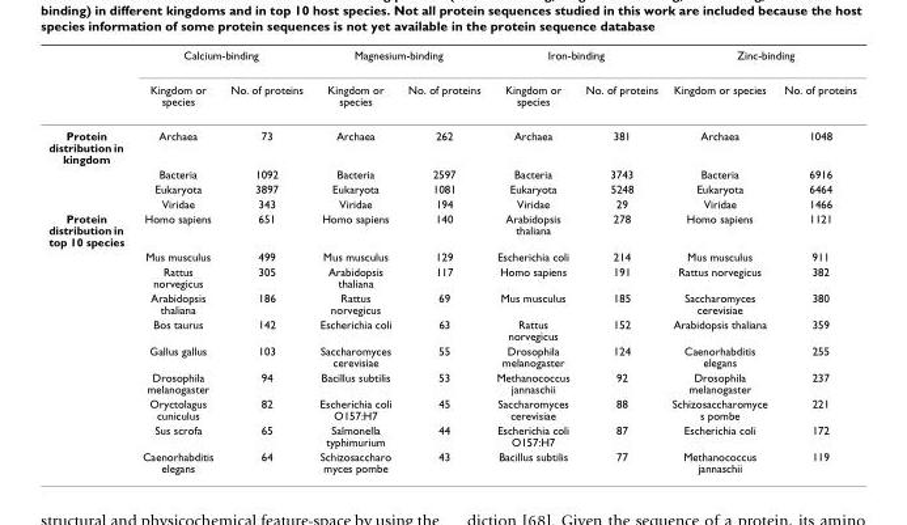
<table><thead><tr><td rowspan="2"></td><td colspan="2">Calcium-binding</td><td colspan="2">Magnesium-binding</td><td colspan="2">Iron-binding</td><td colspan="2">Zinc-binding</td></tr><tr><td>Kingdom or species</td><td>No. of proteins</td><td>Kingdom or species</td><td>No. of proteins</td><td>Kingdom or species</td><td>No. of proteins</td><td>Kingdom or species</td><td>No. of proteins</td></tr></thead><tbody><tr><td rowspan="4">Protein distribution in kingdom</td><td>Archaea</td><td>73</td><td>Archaea</td><td>262</td><td>Archaea</td><td>381</td><td>Archaea</td><td>1048</td></tr><tr><td>Bacteria</td><td>1092</td><td>Bacteria</td><td>2597</td><td>Bacteria</td><td>3743</td><td>Bacteria</td><td>6916</td></tr><tr><td>Eukaryota</td><td>3897</td><td>Eukaryota</td><td>1081</td><td>Eukaryota</td><td>5248</td><td>Eukaryota</td><td>6464</td></tr><tr><td>Viridae</td><td>343</td><td>Viridae</td><td>194</td><td>Viridae</td><td>29</td><td>Viridae</td><td>1466</td></tr><tr><td rowspan="10">Protein distribution in top 10 species</td><td>Homo sapiens</td><td>651</td><td>Homo sapiens</td><td>140</td><td>Arabidopsis thaliana</td><td>278</td><td>Homo sapiens</td><td>1121</td></tr><tr><td>Mus musculus</td><td>499</td><td>Mus musculus</td><td>129</td><td>Escherichia coli</td><td>214</td><td>Mus musculus</td><td>911</td></tr><tr><td>Rattus norvegicus</td><td>305</td><td>Arabidopsis thaliana</td><td>117</td><td>Homo sapiens</td><td>191</td><td>Rattus norvegicus</td><td>382</td></tr><tr><td>Arabidopsis thaliana</td><td>186</td><td>Rattus norvegicus</td><td>69</td><td>Mus musculus</td><td>185</td><td>Saccharomyces cerevisiae</td><td>380</td></tr><tr><td>Bos taurus</td><td>142</td><td>Escherichia coli</td><td>63</td><td>Rattus norvegicus</td><td>152</td><td>Arabidopsis thaliana</td><td>359</td></tr><tr><td>Gallus gallus</td><td>103</td><td>Saccharomyces cerevisiae</td><td>55</td><td>Drosophila melanogaster</td><td>124</td><td>Caenorhabditis elegans</td><td>255</td></tr><tr><td>Drosophila melanogaster</td><td>94</td><td>Bacillus subtilis</td><td>53</td><td>Methanococcus jannaschii</td><td>92</td><td>Drosophila melanogaster</td><td>237</td></tr><tr><td>Oryctolagus cuniculus</td><td>82</td><td>Escherichia coli O157:H7</td><td>45</td><td>Saccharomyces cerevisiae</td><td>88</td><td>Schizosaccharomyce s pombe</td><td>221</td></tr><tr><td>Sus scrofa</td><td>65</td><td>Salmonella typhimurium</td><td>44</td><td>Escherichia coli O157:H7</td><td>87</td><td>Escherichia coli</td><td>172</td></tr><tr><td>Caenorhabditis elegans</td><td>64</td><td>Schizosaccharo myces pombe</td><td>43</td><td>Bacillus subtilis</td><td>77</td><td>Methanococcus jannaschii</td><td>119</td></tr></tbody></table>